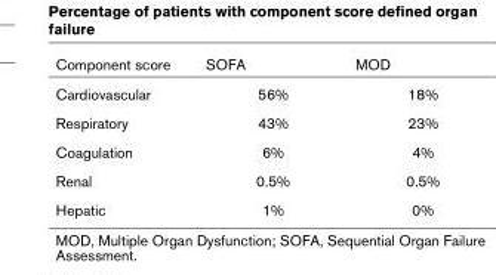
<table><thead><tr><td>Component score</td><td>SOFA</td><td>MOD</td></tr></thead><tbody><tr><td>Cardiovascular</td><td>56%</td><td>18%</td></tr><tr><td>Respiratory</td><td>43%</td><td>23%</td></tr><tr><td>Coagulation</td><td>6%</td><td>4%</td></tr><tr><td>Renal</td><td>0.5%</td><td>0.5%</td></tr><tr><td>Hepatic</td><td>1%</td><td>0%</td></tr></tbody></table>